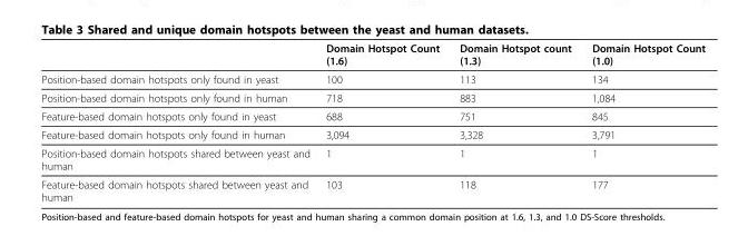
<table><thead><tr><td></td><td>Domain Hotspot Count (1.6)</td><td>Domain Hotspot count (1.3)</td><td>Domain Hotspot Count (1.0)</td></tr></thead><tbody><tr><td>Position-based domain hotspots only found in yeast</td><td>100</td><td>113</td><td>134</td></tr><tr><td>Position-based domain hotspots only found in human</td><td>718</td><td>883</td><td>1,084</td></tr><tr><td>Feature-based domain hotspots only found in yeast</td><td>688</td><td>751</td><td>845</td></tr><tr><td>Feature-based domain hotspots only found in human</td><td>3,094</td><td>3,328</td><td>3,791</td></tr><tr><td>Position-based domain hotspots shared between yeast and human</td><td>1</td><td>1</td><td>1</td></tr><tr><td>Feature-based domain hotspots shared between yeast and human</td><td>103</td><td>118</td><td>177</td></tr></tbody></table>